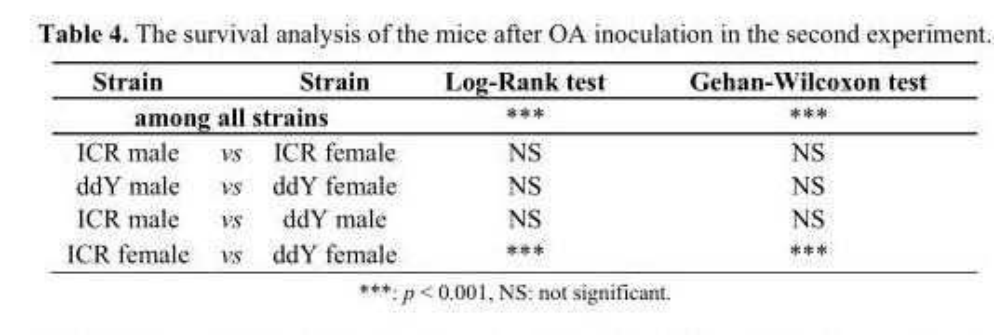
<table><thead><tr><td>Strain</td><td></td><td>Strain</td><td rowspan="2">Log-Rank test ***</td><td rowspan="2">Gehan-Wilcoxon test ***</td></tr><tr><td colspan="3">among all strains</td></tr></thead><tbody><tr><td>ICR male</td><td>vs</td><td>ICR female</td><td>NS</td><td>NS</td></tr><tr><td>ddY male</td><td>vs</td><td>ddY female</td><td>NS</td><td>NS</td></tr><tr><td>ICR male</td><td>vs</td><td>ddY male</td><td>NS</td><td>NS</td></tr><tr><td>ICR female</td><td>vs</td><td>ddY female</td><td>***</td><td>***</td></tr></tbody></table>